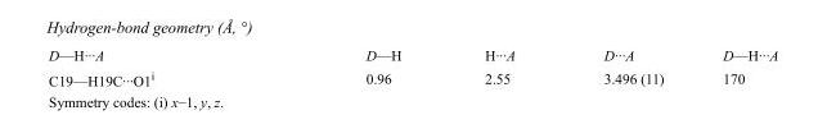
<table><tbody><tr><td>D—H···A</td><td>D—H</td><td>H···A</td><td>D···A</td><td>D—H···A</td></tr><tr><td>C19—H19C···O1<sup>i</sup></td><td>0.96</td><td>2.55</td><td>3.496 (11)</td><td>170</td></tr></tbody></table>